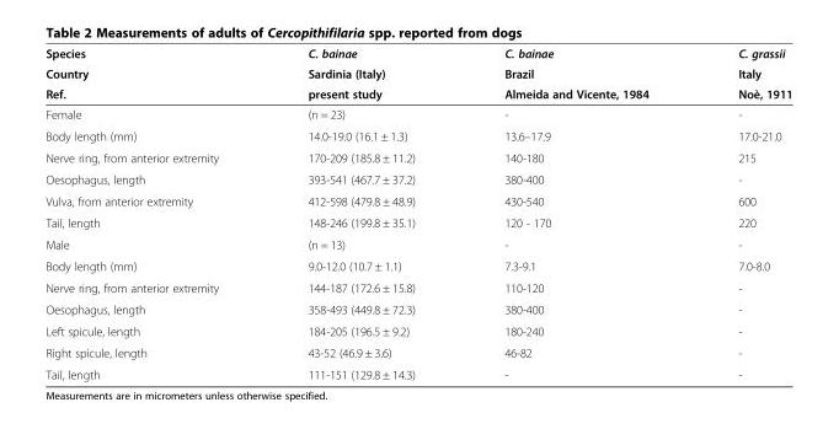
<table><thead><tr><td rowspan="3">Species Country Ref.</td><td rowspan="3">C. bainae Sardinia (Italy) present study</td><td rowspan="3">C. bainae Brazil Almeida and Vicente, 1984</td><td rowspan="3">C. grassii Italy Noè, 1911</td></tr><tr></tr><tr></tr></thead><tbody><tr><td>Female</td><td>(n = 23)</td><td>-</td><td>-</td></tr><tr><td>Body length (mm)</td><td>14.0-19.0 (16.1 ± 1.3)</td><td>13.6–17.9</td><td>17.0-21.0</td></tr><tr><td>Nerve ring, from anterior extremity</td><td>170-209 (185.8 ± 11.2)</td><td>140-180</td><td>215</td></tr><tr><td>Oesophagus, length</td><td>393-541 (467.7 ± 37.2)</td><td>380-400</td><td>-</td></tr><tr><td>Vulva, from anterior extremity</td><td>412-598 (479.8 ± 48.9)</td><td>430-540</td><td>600</td></tr><tr><td>Tail, length</td><td>148-246 (199.8 ± 35.1)</td><td>120 - 170</td><td>220</td></tr><tr><td>Male</td><td>(n = 13)</td><td>-</td><td>-</td></tr><tr><td>Body length (mm)</td><td>9.0-12.0 (10.7 ± 1.1)</td><td>7.3-9.1</td><td>7.0-8.0</td></tr><tr><td>Nerve ring, from anterior extremity</td><td>144-187 (172.6 ± 15.8)</td><td>110-120</td><td>-</td></tr><tr><td>Oesophagus, length</td><td>358-493 (449.8 ± 72.3)</td><td>380-400</td><td>-</td></tr><tr><td>Left spicule, length</td><td>184-205 (196.5 ± 9.2)</td><td>180-240</td><td>-</td></tr><tr><td>Right spicule, length</td><td>43-52 (46.9 ± 3.6)</td><td>46-82</td><td>-</td></tr><tr><td>Tail, length</td><td>111-151 (129.8 ± 14.3)</td><td>-</td><td>-</td></tr></tbody></table>